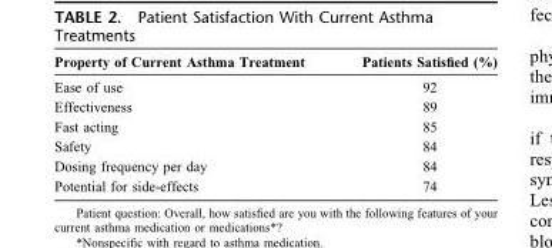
<table><thead><tr><td>Property of Current Asthma Treatment</td><td>Patients Satisfied (%)</td></tr></thead><tbody><tr><td>Ease of use</td><td>92</td></tr><tr><td>Effectiveness</td><td>89</td></tr><tr><td>Fast acting</td><td>85</td></tr><tr><td>Safety</td><td>84</td></tr><tr><td>Dosing frequency per day</td><td>84</td></tr><tr><td>Potential for side-effects</td><td>74</td></tr></tbody></table>